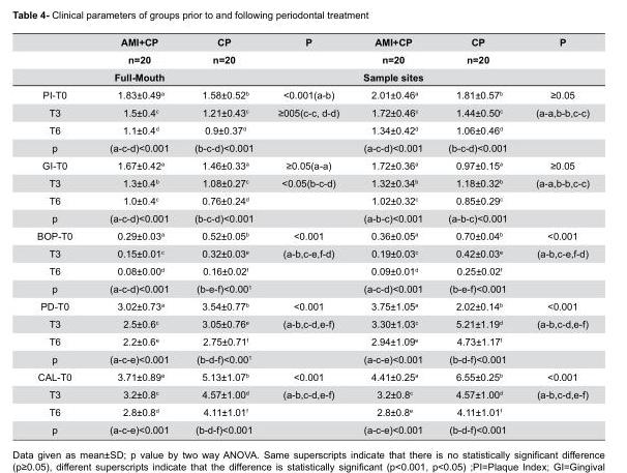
<table><thead><tr><td rowspan="3"></td><td rowspan="3">AMI+CP n=20 Full-Mouth</td><td rowspan="3">CP n=20</td><td rowspan="3">P</td><td rowspan="3">AMI+CP n=20 Sample sites</td><td rowspan="3">CP n=20</td><td rowspan="3">P</td></tr><tr></tr><tr></tr></thead><tbody><tr><td>PI-T0</td><td>1.83±0.49<sup>a</sup></td><td>1.58±0.52<sup>b</sup></td><td>&lt;0.001(a-b)</td><td>2.01±0.46<sup>a</sup></td><td>1.81±0.57<sup>b</sup></td><td>≥0.05</td></tr><tr><td>T3</td><td>1.5±0.4<sup>c</sup></td><td>1.21±0.43<sup>c</sup></td><td>≥005(c-c, d-d)</td><td>1.72±0.46<sup>c</sup></td><td>1.44±0.50<sup>c</sup></td><td>(a-a,b-b,c-c)</td></tr><tr><td>T6</td><td>1.1±0.4<sup>d</sup></td><td>0.9±0.37<sup>d</sup></td><td></td><td>1.34±0.42<sup>d</sup></td><td>1.06±0.46<sup>d</sup></td><td></td></tr><tr><td>p</td><td>(a-c-d)&lt;0.001</td><td>(b-c-d)&lt;0.001</td><td></td><td>(a-c-d)&lt;0.001</td><td>(b-c-d)&lt;0.001</td><td></td></tr><tr><td>GI-T0</td><td>1.67±0.42<sup>a</sup></td><td>1.46±0.33<sup>a</sup></td><td>≥0.05(a-a)</td><td>1.72±0.36<sup>a</sup></td><td>0.97±0.15<sup>a</sup></td><td>≥0.05</td></tr><tr><td>T3</td><td>1.3±0.4<sup>b</sup></td><td>1.08±0.27<sup>c</sup></td><td>&lt;0.05(b-c-d)</td><td>1.32±0.34<sup>b</sup></td><td>1.18±0.32<sup>b</sup></td><td>(a-a,b-b,c-c)</td></tr><tr><td>T6</td><td>1.0±0.4<sup>c</sup></td><td>0.76±0.24<sup>d</sup></td><td></td><td>1.02±0.32<sup>c</sup></td><td>0.85±0.29<sup>c</sup></td><td></td></tr><tr><td>p</td><td>(a-c-d)&lt;0.001</td><td>(b-c-d)&lt;0.001</td><td></td><td>(a-b-c)&lt;0.001</td><td>(a-b-c)&lt;0.001</td><td></td></tr><tr><td>BOP-T0</td><td>0.29±0.03<sup>a</sup></td><td>0.52±0.05<sup>b</sup></td><td>&lt;0.001</td><td>0.36±0.05<sup>a</sup></td><td>0.70±0.04<sup>b</sup></td><td>&lt;0.001</td></tr><tr><td>T3</td><td>0.15±0.01<sup>c</sup></td><td>0.32±0.03<sup>e</sup></td><td>(a-b,c-e,f-d)</td><td>0.19±0.03<sup>c</sup></td><td>0.42±0.03<sup>e</sup></td><td>(a-b,c-e,f-d)</td></tr><tr><td>T6</td><td>0.08±0.00<sup>d</sup></td><td>0.16±0.02<sup>f</sup></td><td></td><td>0.09±0.01<sup>d</sup></td><td>0.25±0.02<sup>f</sup></td><td></td></tr><tr><td>p</td><td>(a-c-d)&lt;0.001</td><td>(b-e-f)&lt;0.00<sup>1</sup></td><td></td><td>(a-c-d)&lt;0.001</td><td>(b-e-f)&lt;0.001</td><td></td></tr><tr><td>PD-T0</td><td>3.02±0.73<sup>a</sup></td><td>3.54±0.77<sup>b</sup></td><td>&lt;0.001</td><td>3.75±1.05<sup>a</sup></td><td>2.02±0.14<sup>b</sup></td><td>&lt;0.001</td></tr><tr><td>T3</td><td>2.5±0.6<sup>c</sup></td><td>3.05±0.76<sup>e</sup></td><td>(a-b,c-d,e-f)</td><td>3.30±1.03<sup>c</sup></td><td>5.21±1.19<sup>d</sup></td><td>(a-b,c-d,e-f)</td></tr><tr><td>T6</td><td>2.2±0.6<sup>e</sup></td><td>2.75±0.71<sup>f</sup></td><td></td><td>2.94±1.09<sup>e</sup></td><td>4.73±1.17<sup>f</sup></td><td></td></tr><tr><td>p</td><td>(a-c-e)&lt;0.001</td><td>(b-d-f)&lt;0.00<sup>1</sup></td><td></td><td>(a-c-e)&lt;0.001</td><td>(b-d-f)&lt;0.001</td><td></td></tr><tr><td>CAL-T0</td><td>3.71±0.89<sup>a</sup></td><td>5.13±1.07<sup>b</sup></td><td>&lt;0.001</td><td>4.41±0.25<sup>a</sup></td><td>6.55±0.25<sup>b</sup></td><td>&lt;0.001</td></tr><tr><td>T3</td><td>3.2±0.8<sup>c</sup></td><td>4.57±1.00<sup>d</sup></td><td>(a-b,c-d,e-f)</td><td>3.2±0.8<sup>c</sup></td><td>4.57±1.00<sup>d</sup></td><td>(a-b,c-d,e-f)</td></tr><tr><td>T6</td><td>2.8±0.8<sup>d</sup></td><td>4.11±1.01<sup>f</sup></td><td></td><td>2.8±0.8<sup>e</sup></td><td>4.11±1.01<sup>f</sup></td><td></td></tr><tr><td>p</td><td>(a-c-e)&lt;0.001</td><td>(b-d-f)&lt;0.001</td><td></td><td>(a-c-e)&lt;0.001</td><td>(b-d-f)&lt;0.001</td><td></td></tr></tbody></table>